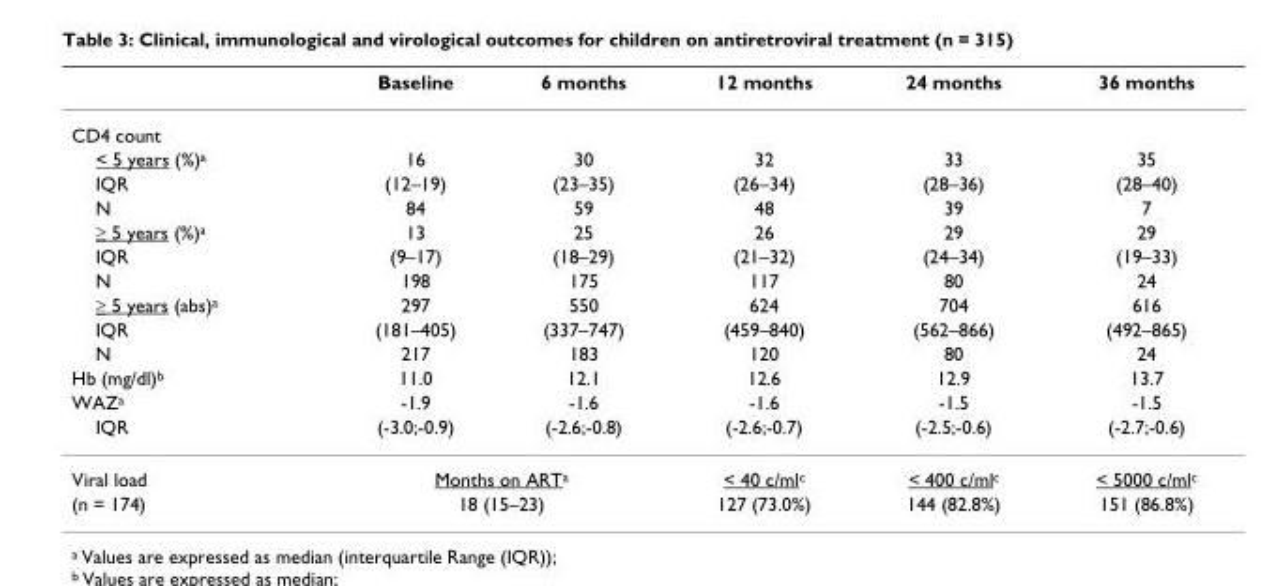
<table><thead><tr><td></td><td>Baseline</td><td>6 months</td><td>12 months</td><td>24 months</td><td>36 months</td></tr></thead><tbody><tr><td colspan="6">CD4 count</td></tr><tr><td>&lt; 5 years (%)<sup>a</sup></td><td>16</td><td>30</td><td>32</td><td>33</td><td>35</td></tr><tr><td>IQR</td><td>(12–19)</td><td>(23–35)</td><td>(26–34)</td><td>(28–36)</td><td>(28–40)</td></tr><tr><td>N</td><td>84</td><td>59</td><td>48</td><td>39</td><td>7</td></tr><tr><td>≥ 5 years (%)<sup>a</sup></td><td>13</td><td>25</td><td>26</td><td>29</td><td>29</td></tr><tr><td>IQR</td><td>(9–17)</td><td>(18–29)</td><td>(21–32)</td><td>(24–34)</td><td>(19–33)</td></tr><tr><td>N</td><td>198</td><td>175</td><td>117</td><td>80</td><td>24</td></tr><tr><td>≥ 5 years (abs)<sup>a</sup></td><td>297</td><td>550</td><td>624</td><td>704</td><td>616</td></tr><tr><td>IQR</td><td>(181–405)</td><td>(337–747)</td><td>(459–840)</td><td>(562–866)</td><td>(492–865)</td></tr><tr><td>N</td><td>217</td><td>183</td><td>120</td><td>80</td><td>24</td></tr><tr><td>Hb (mg/dl)<sup>b</sup></td><td>11.0</td><td>12.1</td><td>12.6</td><td>12.9</td><td>13.7</td></tr><tr><td>WAZ<sup>a</sup></td><td>-1.9</td><td>-1.6</td><td>-1.6</td><td>-1.5</td><td>-1.5</td></tr><tr><td>IQR</td><td>(-3.0;-0.9)</td><td>(-2.6;-0.8)</td><td>(-2.6;-0.7)</td><td>(-2.5;-0.6)</td><td>(-2.7;-0.6)</td></tr><tr><td>Viral load</td><td colspan="2">Months on ART<sup>a</sup></td><td>&lt; 40 c/ml<sup>c</sup></td><td>&lt; 400 c/ml<sup>c</sup></td><td>&lt; 5000 c/ml<sup>c</sup></td></tr><tr><td>(n = 174)</td><td colspan="2">18 (15–23)</td><td>127 (73.0%)</td><td>144 (82.8%)</td><td>151 (86.8%)</td></tr></tbody></table>